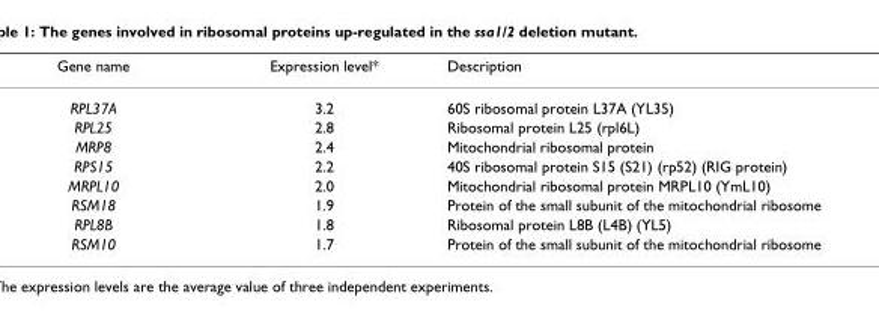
<table><thead><tr><td>Gene name</td><td>Expression level*</td><td>Description</td></tr></thead><tbody><tr><td>RPL37A</td><td>3.2</td><td>60S ribosomal protein L37A (YL35)</td></tr><tr><td>RPL25</td><td>2.8</td><td>Ribosomal protein L25 (rpl6L)</td></tr><tr><td>MRP8</td><td>2.4</td><td>Mitochondrial ribosomal protein</td></tr><tr><td>RPS15</td><td>2.2</td><td>40S ribosomal protein S15 (S21) (rp52) (RIG protein)</td></tr><tr><td>MRPL10</td><td>2.0</td><td>Mitochondrial ribosomal protein MRPL10 (YmL10)</td></tr><tr><td>RSM18</td><td>1.9</td><td>Protein of the small subunit of the mitochondrial ribosome</td></tr><tr><td>RPL8B</td><td>1.8</td><td>Ribosomal protein L8B (L4B) (YL5)</td></tr><tr><td>RSM10</td><td>1.7</td><td>Protein of the small subunit of the mitochondrial ribosome</td></tr></tbody></table>